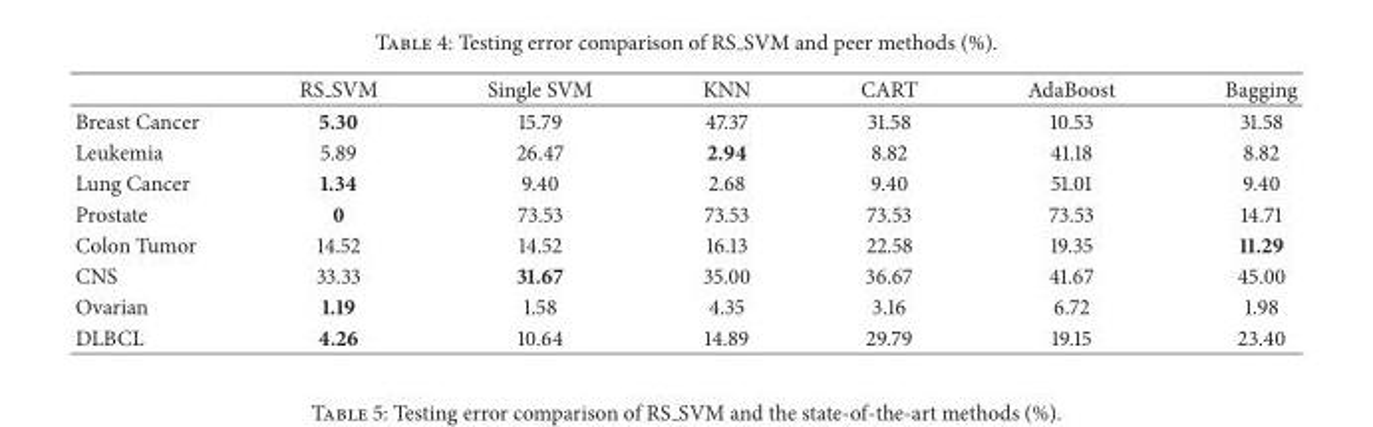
<table><thead><tr><td></td><td>RS SVM</td><td>Single SVM</td><td>KNN</td><td>CART</td><td>AdaBoost</td><td>Bagging</td></tr></thead><tbody><tr><td>Breast Cancer</td><td>5.30</td><td>15.79</td><td>47.37</td><td>31.58</td><td>10.53</td><td>31.58</td></tr><tr><td>Leukemia</td><td>5.89</td><td>26.47</td><td>2.94</td><td>8.82</td><td>41.18</td><td>8.82</td></tr><tr><td>Lung Cancer</td><td>1.34</td><td>9.40</td><td>2.68</td><td>9.40</td><td>51.01</td><td>9.40</td></tr><tr><td>Prostate</td><td>0</td><td>73.53</td><td>73.53</td><td>73.53</td><td>73.53</td><td>14.71</td></tr><tr><td>Colon Tumor</td><td>14.52</td><td>14.52</td><td>16.13</td><td>22.58</td><td>19.35</td><td>11.29</td></tr><tr><td>CNS</td><td>33.33</td><td>31.67</td><td>35.00</td><td>36.67</td><td>41.67</td><td>45.00</td></tr><tr><td>Ovarian</td><td>1.19</td><td>1.58</td><td>4.35</td><td>3.16</td><td>6.72</td><td>1.98</td></tr><tr><td>DLBCL</td><td>4.26</td><td>10.64</td><td>14.89</td><td>29.79</td><td>19.15</td><td>23.40</td></tr></tbody></table>